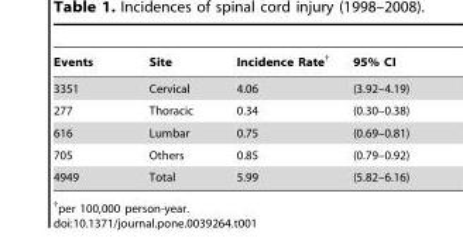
<table><thead><tr><td>Events</td><td>Site</td><td>Incidence Rate†</td><td>95% CI</td></tr></thead><tbody><tr><td>3351</td><td>Cervical</td><td>4.06</td><td>(3.92–4.19)</td></tr><tr><td>277</td><td>Thoracic</td><td>0.34</td><td>(0.30–0.38)</td></tr><tr><td>616</td><td>Lumbar</td><td>0.75</td><td>(0.69–0.81)</td></tr><tr><td>705</td><td>Others</td><td>0.85</td><td>(0.79–0.92)</td></tr><tr><td>4949</td><td>Total</td><td>5.99</td><td>(5.82–6.16)</td></tr></tbody></table>